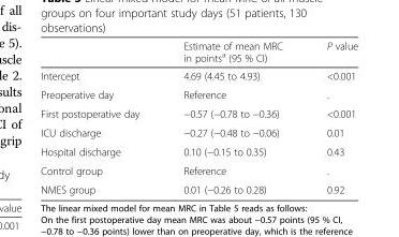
<table><thead><tr><td></td><td>Estimate of mean MRC in points<sup>a</sup> (95 % CI)</td><td>P value</td></tr></thead><tbody><tr><td>Intercept</td><td>4.69 (4.45 to 4.93)</td><td>&lt;0.001</td></tr><tr><td>Preoperative day</td><td>Reference</td><td>.</td></tr><tr><td>First postoperative day</td><td>−0.57 (−0.78 to −0.36)</td><td>&lt;0.001</td></tr><tr><td>ICU discharge</td><td>−0.27 (−0.48 to −0.06)</td><td>0.01</td></tr><tr><td>Hospital discharge</td><td>0.10 (−0.15 to 0.35)</td><td>0.43</td></tr><tr><td>Control group</td><td>Reference</td><td>.</td></tr><tr><td>NMES group</td><td>0.01 (−0.26 to 0.28)</td><td>0.92</td></tr></tbody></table>